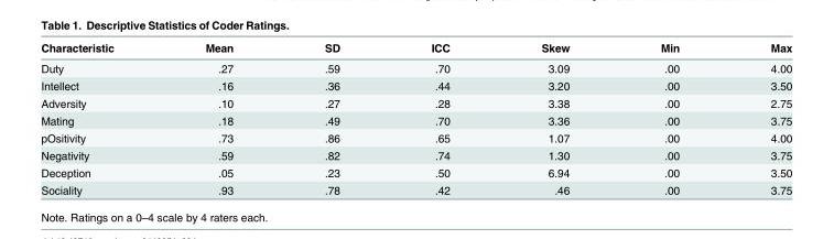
<table><thead><tr><td>Characteristic</td><td>Mean</td><td>SD</td><td>ICC</td><td>Skew</td><td>Min</td><td>Max</td></tr></thead><tbody><tr><td>Duty</td><td>.27</td><td>.59</td><td>.70</td><td>3.09</td><td>.00</td><td>4.00</td></tr><tr><td>Intellect</td><td>.16</td><td>.36</td><td>.44</td><td>3.20</td><td>.00</td><td>3.50</td></tr><tr><td>Adversity</td><td>.10</td><td>.27</td><td>.28</td><td>3.38</td><td>.00</td><td>2.75</td></tr><tr><td>Mating</td><td>.18</td><td>.49</td><td>.70</td><td>3.36</td><td>.00</td><td>3.75</td></tr><tr><td>pOsitivity</td><td>.73</td><td>.86</td><td>.65</td><td>1.07</td><td>.00</td><td>4.00</td></tr><tr><td>Negativity</td><td>.59</td><td>.82</td><td>.74</td><td>1.30</td><td>.00</td><td>3.75</td></tr><tr><td>Deception</td><td>.05</td><td>.23</td><td>.50</td><td>6.94</td><td>.00</td><td>3.50</td></tr><tr><td>Sociality</td><td>.93</td><td>.78</td><td>.42</td><td>.46</td><td>.00</td><td>3.75</td></tr></tbody></table>